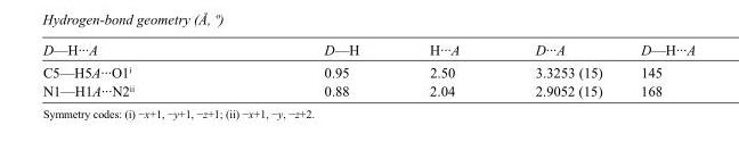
<table><tbody><tr><td>D—H···A</td><td>D—H</td><td>H···A</td><td>D···A</td><td>D—H···A</td></tr><tr><td>C5—H5A···O1<sup>i</sup></td><td>0.95</td><td>2.50</td><td>3.3253 (15)</td><td>145</td></tr><tr><td>N1—H1A···N2<sup>ii</sup></td><td>0.88</td><td>2.04</td><td>2.9052 (15)</td><td>168</td></tr></tbody></table>